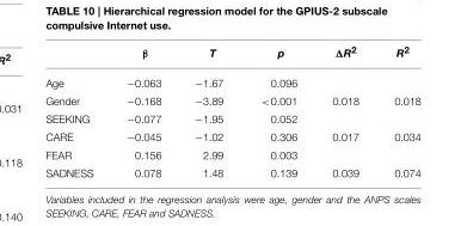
<table><thead><tr><td></td><td>β</td><td>T</td><td>p</td><td>ΔR<sup>2</sup></td><td>R<sup>2</sup></td></tr></thead><tbody><tr><td>Age</td><td>−0.063</td><td>−1.67</td><td>0.096</td><td></td><td></td></tr><tr><td>Gender</td><td>−0.168</td><td>−3.89</td><td>&lt;0.001</td><td>0.018</td><td>0.018</td></tr><tr><td>SEEKING</td><td>−0.077</td><td>−1.95</td><td>0.052</td><td></td><td></td></tr><tr><td>CARE</td><td>−0.045</td><td>−1.02</td><td>0.306</td><td>0.017</td><td>0.034</td></tr><tr><td>FEAR</td><td>0.156</td><td>2.99</td><td>0.003</td><td></td><td></td></tr><tr><td>SADNESS</td><td>0.078</td><td>1.48</td><td>0.139</td><td>0.039</td><td>0.074</td></tr></tbody></table>